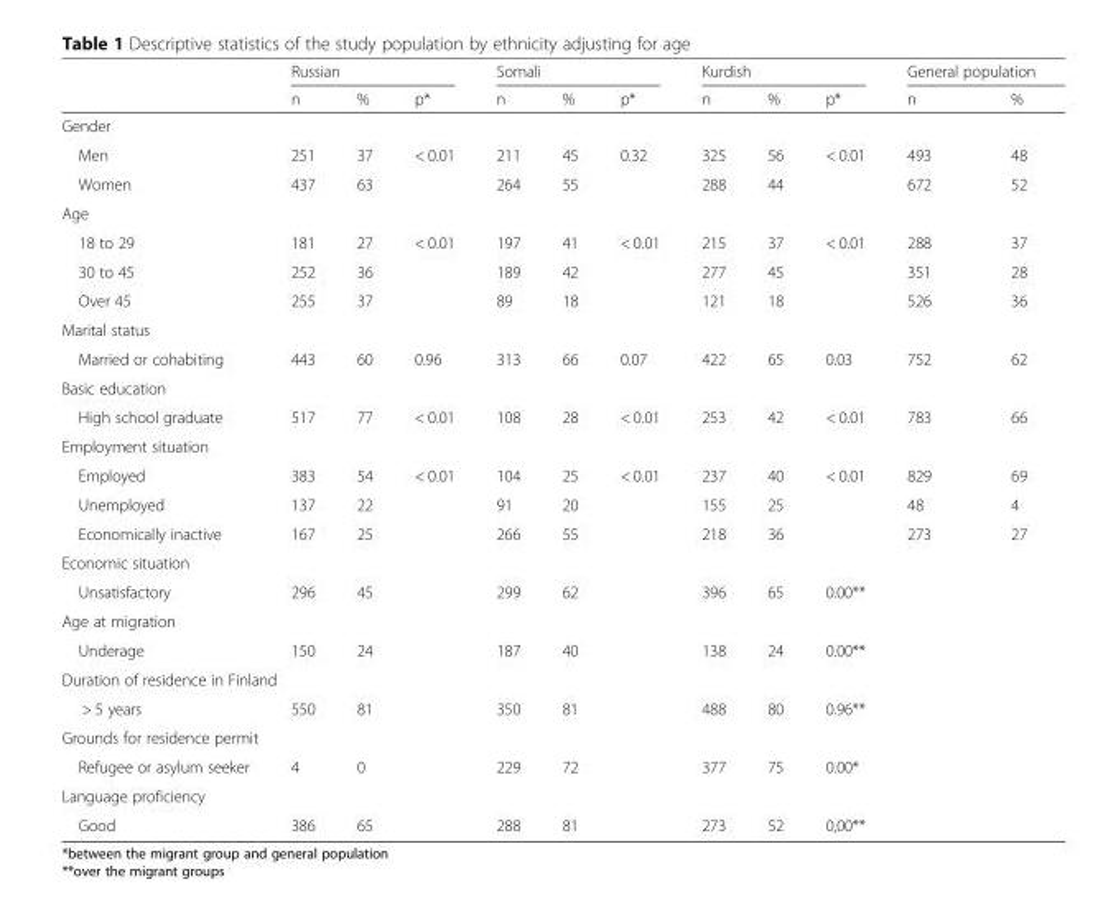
<table><thead><tr><td rowspan="2"></td><td colspan="3">Russian</td><td colspan="3">Somali</td><td colspan="3">Kurdish</td><td colspan="2">General population</td></tr><tr><td>n</td><td>%</td><td>p*</td><td>n</td><td>%</td><td>p*</td><td>n</td><td>%</td><td>p*</td><td>n</td><td>%</td></tr></thead><tbody><tr><td colspan="12">Gender</td></tr><tr><td>Men</td><td>251</td><td>37</td><td>&lt; 0.01</td><td>211</td><td>45</td><td>0.32</td><td>325</td><td>56</td><td>&lt; 0.01</td><td>493</td><td>48</td></tr><tr><td>Women</td><td>437</td><td>63</td><td></td><td>264</td><td>55</td><td></td><td>288</td><td>44</td><td></td><td>672</td><td>52</td></tr><tr><td colspan="12">Age</td></tr><tr><td>18 to 29</td><td>181</td><td>27</td><td>&lt; 0.01</td><td>197</td><td>41</td><td>&lt; 0.01</td><td>215</td><td>37</td><td>&lt; 0.01</td><td>288</td><td>37</td></tr><tr><td>30 to 45</td><td>252</td><td>36</td><td></td><td>189</td><td>42</td><td></td><td>277</td><td>45</td><td></td><td>351</td><td>28</td></tr><tr><td>Over 45</td><td>255</td><td>37</td><td></td><td>89</td><td>18</td><td></td><td>121</td><td>18</td><td></td><td>526</td><td>36</td></tr><tr><td colspan="12">Marital status</td></tr><tr><td>Married or cohabiting</td><td>443</td><td>60</td><td>0.96</td><td>313</td><td>66</td><td>0.07</td><td>422</td><td>65</td><td>0.03</td><td>752</td><td>62</td></tr><tr><td colspan="12">Basic education</td></tr><tr><td>High school graduate</td><td>517</td><td>77</td><td>&lt; 0.01</td><td>108</td><td>28</td><td>&lt; 0.01</td><td>253</td><td>42</td><td>&lt; 0.01</td><td>783</td><td>66</td></tr><tr><td colspan="12">Employment situation</td></tr><tr><td>Employed</td><td>383</td><td>54</td><td>&lt; 0.01</td><td>104</td><td>25</td><td>&lt; 0.01</td><td>237</td><td>40</td><td>&lt; 0.01</td><td>829</td><td>69</td></tr><tr><td>Unemployed</td><td>137</td><td>22</td><td></td><td>91</td><td>20</td><td></td><td>155</td><td>25</td><td></td><td>48</td><td>4</td></tr><tr><td>Economically inactive</td><td>167</td><td>25</td><td></td><td>266</td><td>55</td><td></td><td>218</td><td>36</td><td></td><td>273</td><td>27</td></tr><tr><td colspan="12">Economic situation</td></tr><tr><td>Unsatisfactory</td><td>296</td><td>45</td><td></td><td>299</td><td>62</td><td></td><td>396</td><td>65</td><td>0.00**</td><td></td><td></td></tr><tr><td colspan="12">Age at migration</td></tr><tr><td>Underage</td><td>150</td><td>24</td><td></td><td>187</td><td>40</td><td></td><td>138</td><td>24</td><td>0.00**</td><td></td><td></td></tr><tr><td colspan="12">Duration of residence in Finland</td></tr><tr><td>&gt; 5 years</td><td>550</td><td>81</td><td></td><td>350</td><td>81</td><td></td><td>488</td><td>80</td><td>0.96**</td><td></td><td></td></tr><tr><td colspan="12">Grounds for residence permit</td></tr><tr><td>Refugee or asylum seeker</td><td>4</td><td>0</td><td></td><td>229</td><td>72</td><td></td><td>377</td><td>75</td><td>0.00*</td><td></td><td></td></tr><tr><td colspan="12">Language proficiency</td></tr><tr><td>Good</td><td>386</td><td>65</td><td></td><td>288</td><td>81</td><td></td><td>273</td><td>52</td><td>0,00**</td><td></td><td></td></tr></tbody></table>